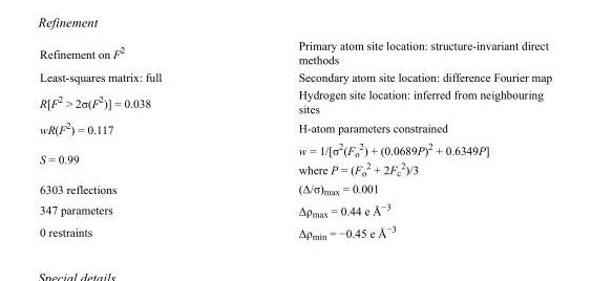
<table><tbody><tr><td>Refinement on F<sup>2</sup></td><td>Primary atom site location: structure-invariant direct methods</td></tr><tr><td>Least-squares matrix: full</td><td>Secondary atom site location: difference Fourier map</td></tr><tr><td>R[F<sup>2</sup> &gt; 2σ(F<sup>2</sup>)] = 0.038</td><td>Hydrogen site location: inferred from neighbouring sites</td></tr><tr><td>wR(F<sup>2</sup>) = 0.117</td><td>H-atom parameters constrained</td></tr><tr><td>S = 0.99</td><td>w = 1/[σ<sup>2</sup>(F<sub>o</sub> <sup>2</sup>) + (0.0689P)<sup>2</sup> + 0.6349P] where P = (F<sub>o</sub> <sup>2</sup> + 2F<sub>c</sub> <sup>2</sup>)/3</td></tr><tr><td>6303 reflections</td><td>(Δ/σ)<sub>max</sub> = 0.001</td></tr><tr><td>347 parameters</td><td>Δρ<sub>max</sub> = 0.44 e Å<sup>−3</sup></td></tr><tr><td>0 restraints</td><td>Δρ<sub>min</sub> = −0.45 e Å<sup>−3</sup></td></tr></tbody></table>